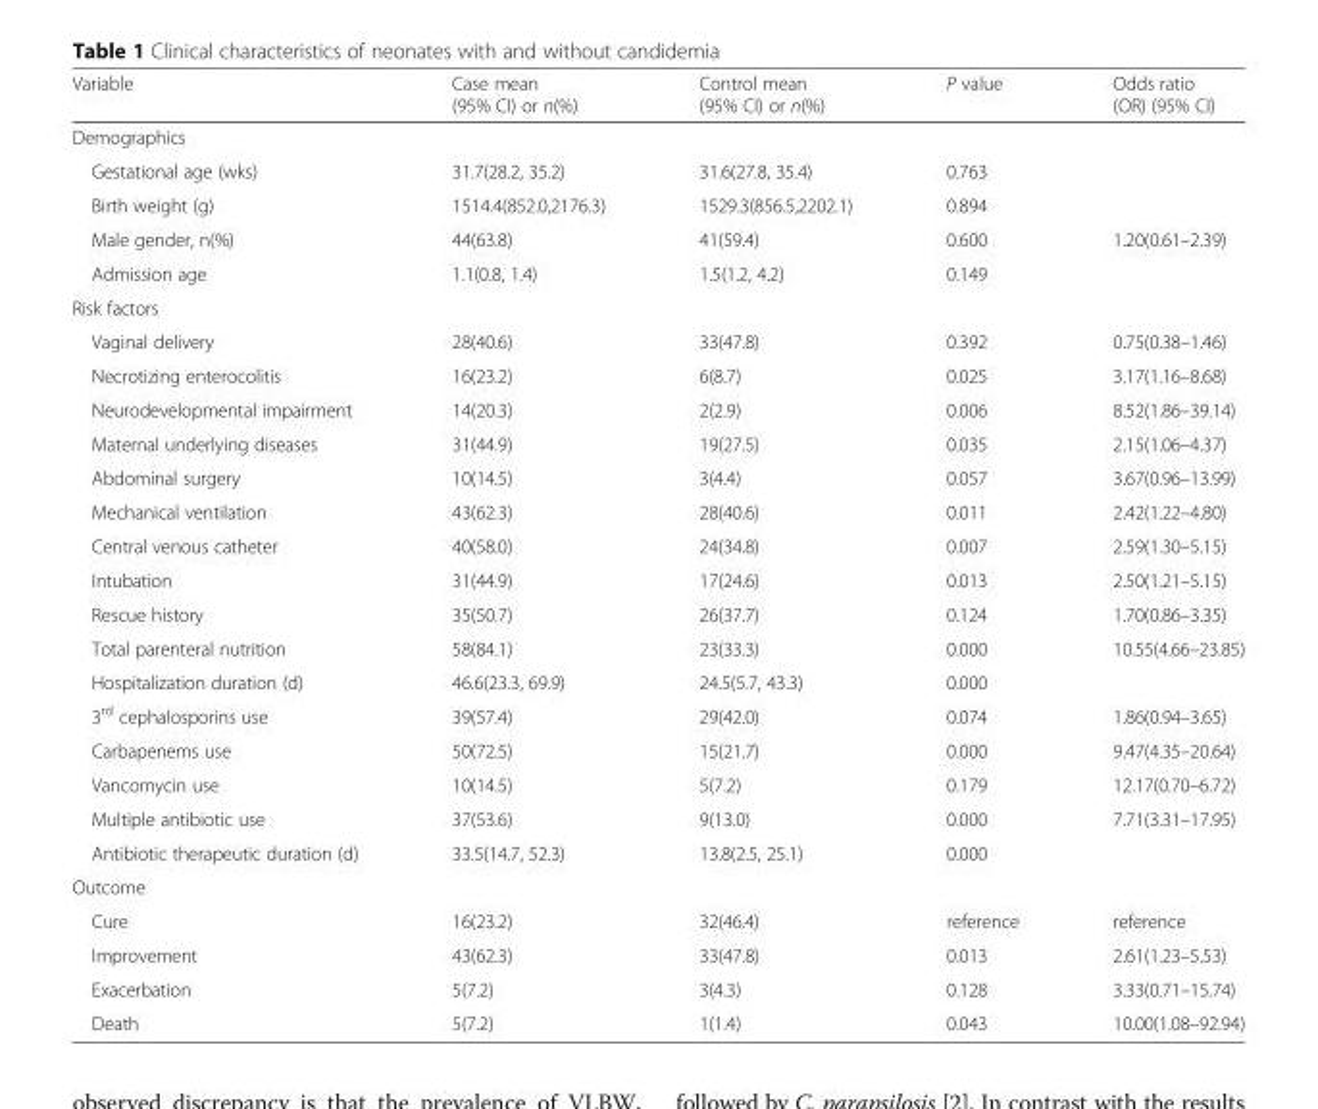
<table><thead><tr><td>Variable</td><td>Case mean (95% CI) or n(%)</td><td>Control mean (95% CI) or n(%)</td><td>P value</td><td>Odds ratio (OR) (95% CI)</td></tr></thead><tbody><tr><td colspan="5">Demographics</td></tr><tr><td>Gestational age (wks)</td><td>31.7(28.2, 35.2)</td><td>31.6(27.8, 35.4)</td><td>0.763</td><td></td></tr><tr><td>Birth weight (g)</td><td>1514.4(852.0,2176.3)</td><td>1529.3(856.5,2202.1)</td><td>0.894</td><td></td></tr><tr><td>Male gender, n(%)</td><td>44(63.8)</td><td>41(59.4)</td><td>0.600</td><td>1.20(0.61–2.39)</td></tr><tr><td>Admission age</td><td>1.1(0.8, 1.4)</td><td>1.5(1.2, 4.2)</td><td>0.149</td><td></td></tr><tr><td colspan="5">Risk factors</td></tr><tr><td>Vaginal delivery</td><td>28(40.6)</td><td>33(47.8)</td><td>0.392</td><td>0.75(0.38–1.46)</td></tr><tr><td>Necrotizing enterocolitis</td><td>16(23.2)</td><td>6(8.7)</td><td>0.025</td><td>3.17(1.16–8.68)</td></tr><tr><td>Neurodevelopmental impairment</td><td>14(20.3)</td><td>2(2.9)</td><td>0.006</td><td>8.52(1.86–39.14)</td></tr><tr><td>Maternal underlying diseases</td><td>31(44.9)</td><td>19(27.5)</td><td>0.035</td><td>2.15(1.06–4.37)</td></tr><tr><td>Abdominal surgery</td><td>10(14.5)</td><td>3(4.4)</td><td>0.057</td><td>3.67(0.96–13.99)</td></tr><tr><td>Mechanical ventilation</td><td>43(62.3)</td><td>28(40.6)</td><td>0.011</td><td>2.42(1.22–4.80)</td></tr><tr><td>Central venous catheter</td><td>40(58.0)</td><td>24(34.8)</td><td>0.007</td><td>2.59(1.30–5.15)</td></tr><tr><td>Intubation</td><td>31(44.9)</td><td>17(24.6)</td><td>0.013</td><td>2.50(1.21–5.15)</td></tr><tr><td>Rescue history</td><td>35(50.7)</td><td>26(37.7)</td><td>0.124</td><td>1.70(0.86–3.35)</td></tr><tr><td>Total parenteral nutrition</td><td>58(84.1)</td><td>23(33.3)</td><td>0.000</td><td>10.55(4.66–23.85)</td></tr><tr><td>Hospitalization duration (d)</td><td>46.6(23.3, 69.9)</td><td>24.5(5.7, 43.3)</td><td>0.000</td><td></td></tr><tr><td>3<sup>rd</sup> cephalosporins use</td><td>39(57.4)</td><td>29(42.0)</td><td>0.074</td><td>1.86(0.94–3.65)</td></tr><tr><td>Carbapenems use</td><td>50(72.5)</td><td>15(21.7)</td><td>0.000</td><td>9.47(4.35–20.64)</td></tr><tr><td>Vancomycin use</td><td>10(14.5)</td><td>5(7.2)</td><td>0.179</td><td>12.17(0.70–6.72)</td></tr><tr><td>Multiple antibiotic use</td><td>37(53.6)</td><td>9(13.0)</td><td>0.000</td><td>7.71(3.31–17.95)</td></tr><tr><td>Antibiotic therapeutic duration (d)</td><td>33.5(14.7, 52.3)</td><td>13.8(2.5, 25.1)</td><td>0.000</td><td></td></tr><tr><td colspan="5">Outcome</td></tr><tr><td>Cure</td><td>16(23.2)</td><td>32(46.4)</td><td>reference</td><td>reference</td></tr><tr><td>Improvement</td><td>43(62.3)</td><td>33(47.8)</td><td>0.013</td><td>2.61(1.23–5.53)</td></tr><tr><td>Exacerbation</td><td>5(7.2)</td><td>3(4.3)</td><td>0.128</td><td>3.33(0.71–15.74)</td></tr><tr><td>Death</td><td>5(7.2)</td><td>1(1.4)</td><td>0.043</td><td>10.00(1.08–92.94)</td></tr></tbody></table>